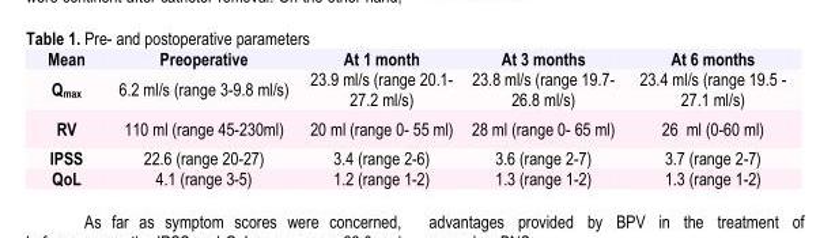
<table><thead><tr><td rowspan="5">Mean Qmax RV IPSS QoL</td><td rowspan="5">Preoperative 6.2 ml/s (range 3-9.8 ml/s) 110 ml (range 45-230ml) 22.6 (range 20-27) 4.1 (range 3-5)</td><td rowspan="5">At 1 month 23.9 ml/s (range 20.1- 27.2 ml/s) 20 ml (range 0- 55 ml) 3.4 (range 2-6) 1.2 (range 1-2)</td><td rowspan="5">At 3 months 23.8 ml/s (range 19.7- 26.8 ml/s) 28 ml (range 0- 65 ml) 3.6 (range 2-7) 1.3 (range 1-2)</td><td rowspan="5">At 6 months 23.4 ml/s (range 19.5 - 27.1 ml/s) 26 ml (0-60 ml) 3.7 (range 2-7) 1.3 (range 1-2)</td></tr><tr></tr><tr></tr><tr></tr><tr></tr></thead><tbody></tbody></table>